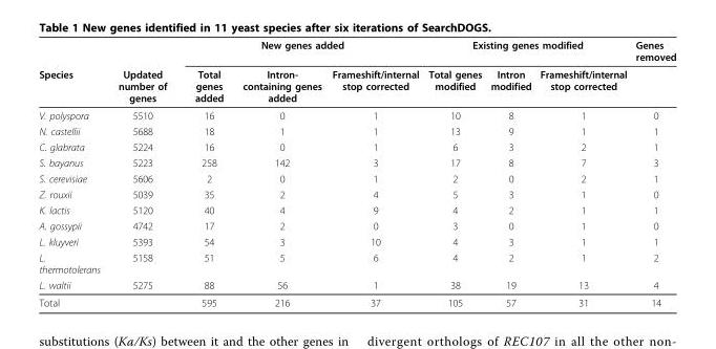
<table><thead><tr><td rowspan="2">Species</td><td rowspan="2">Updated number of genes</td><td colspan="3">New genes added</td><td colspan="3">Existing genes modified</td><td rowspan="2">Genes removed</td></tr><tr><td>Total genes added</td><td>Intron- containing genes added</td><td>Frameshift/internal stop corrected</td><td>Total genes modified</td><td>Intron modified</td><td>Frameshift/internal stop corrected</td></tr></thead><tbody><tr><td>V. polyspora</td><td>5510</td><td>16</td><td>0</td><td>1</td><td>10</td><td>8</td><td>1</td><td>0</td></tr><tr><td>N. castellii</td><td>5688</td><td>18</td><td>1</td><td>1</td><td>13</td><td>9</td><td>1</td><td>1</td></tr><tr><td>C. glabrata</td><td>5224</td><td>16</td><td>0</td><td>1</td><td>6</td><td>3</td><td>2</td><td>1</td></tr><tr><td>S. bayanus</td><td>5223</td><td>258</td><td>142</td><td>3</td><td>17</td><td>8</td><td>7</td><td>3</td></tr><tr><td>S. cerevisiae</td><td>5606</td><td>2</td><td>0</td><td>1</td><td>2</td><td>0</td><td>2</td><td>1</td></tr><tr><td>Z. rouxii</td><td>5039</td><td>35</td><td>2</td><td>4</td><td>5</td><td>3</td><td>1</td><td>0</td></tr><tr><td>K. lactis</td><td>5120</td><td>40</td><td>4</td><td>9</td><td>4</td><td>2</td><td>1</td><td>1</td></tr><tr><td>A. gossypii</td><td>4742</td><td>17</td><td>2</td><td>0</td><td>3</td><td>0</td><td>1</td><td>0</td></tr><tr><td>L. kluyveri</td><td>5393</td><td>54</td><td>3</td><td>10</td><td>4</td><td>3</td><td>1</td><td>1</td></tr><tr><td>L. thermotolerans</td><td>5158</td><td>51</td><td>5</td><td>6</td><td>4</td><td>2</td><td>1</td><td>2</td></tr><tr><td>L. waltii</td><td>5275</td><td>88</td><td>56</td><td>1</td><td>38</td><td>19</td><td>13</td><td>4</td></tr><tr><td>Total</td><td></td><td>595</td><td>216</td><td>37</td><td>105</td><td>57</td><td>31</td><td>14</td></tr></tbody></table>